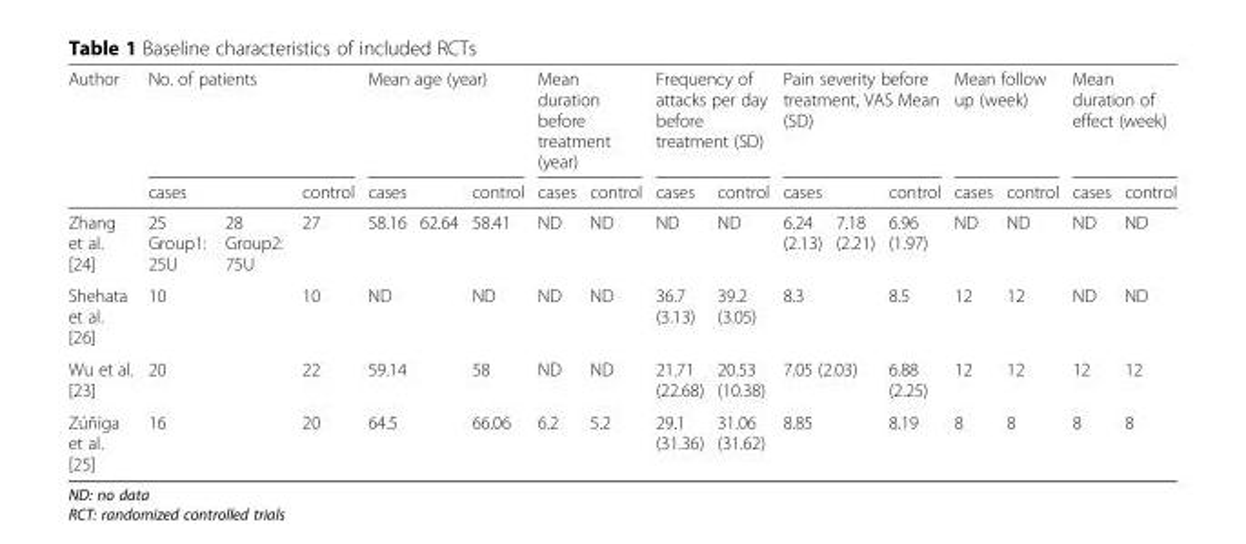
<table><thead><tr><td rowspan="3">Author Zhang et al. [24]</td><td colspan="3">No. of patients</td><td colspan="3">Mean age (year)</td><td colspan="2">Mean duration before treatment (year)</td><td colspan="2">Frequency of attacks per day before treatment (SD)</td><td colspan="3">Pain severity before treatment, VAS Mean (SD)</td><td colspan="2">Mean follow up (week)</td><td colspan="2">Mean duration of effect (week)</td></tr><tr><td colspan="2">cases</td><td rowspan="2">control 27</td><td colspan="2">cases</td><td rowspan="2">control 58.41</td><td rowspan="2">cases ND</td><td rowspan="2">control ND</td><td rowspan="2">cases ND</td><td rowspan="2">control ND</td><td colspan="2">cases</td><td rowspan="2">control 6.96 (1.97)</td><td rowspan="2">cases ND</td><td rowspan="2">control ND</td><td rowspan="2">cases ND</td><td rowspan="2">control ND</td></tr><tr><td>25 Group1: 25U</td><td>28 Group2: 75U</td><td>58.16</td><td>62.64</td><td>6.24 (2.13)</td><td>7.18 (2.21)</td></tr></thead><tbody><tr><td>Shehata et al. [26]</td><td colspan="2">10</td><td>10</td><td colspan="2">ND</td><td>ND</td><td>ND</td><td>ND</td><td>36.7 (3.13)</td><td>39.2 (3.05)</td><td colspan="2">8.3</td><td>8.5</td><td>12</td><td>12</td><td>ND</td><td>ND</td></tr><tr><td>Wu et al. [23]</td><td colspan="2">20</td><td>22</td><td colspan="2">59.14</td><td>58</td><td>ND</td><td>ND</td><td>21.71 (22.68)</td><td>20.53 (10.38)</td><td colspan="2">7.05 (2.03)</td><td>6.88 (2.25)</td><td>12</td><td>12</td><td>12</td><td>12</td></tr><tr><td>Zúñiga et al. [25]</td><td colspan="2">16</td><td>20</td><td colspan="2">64.5</td><td>66.06</td><td>6.2</td><td>5.2</td><td>29.1 (31.36)</td><td>31.06 (31.62)</td><td colspan="2">8.85</td><td>8.19</td><td>8</td><td>8</td><td>8</td><td>8</td></tr></tbody></table>